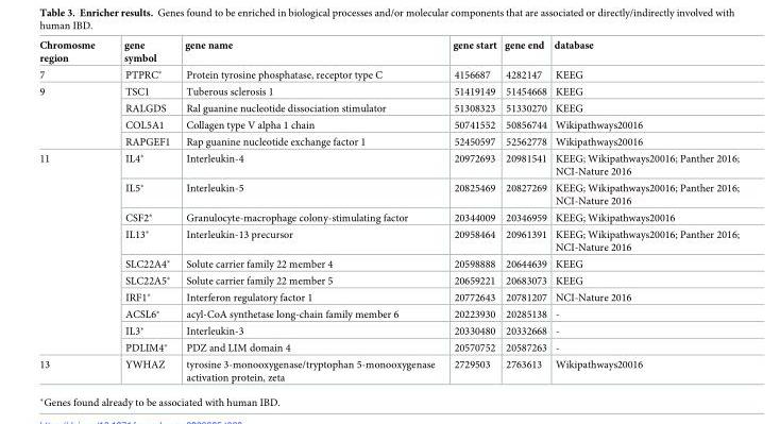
<table><thead><tr><td>Chromosme region</td><td>gene symbol</td><td>gene name</td><td>gene start</td><td>gene end</td><td>database</td></tr></thead><tbody><tr><td>7</td><td>PTPRC*</td><td>Protein tyrosine phosphatase, receptor type C</td><td>4156687</td><td>4282147</td><td>KEEG</td></tr><tr><td rowspan="4">9</td><td>TSC1</td><td>Tuberous sclerosis 1</td><td>51419149</td><td>51454668</td><td>KEEG</td></tr><tr><td>RALGDS</td><td>Ral guanine nucleotide dissociation stimulator</td><td>51308323</td><td>51330270</td><td>KEEG</td></tr><tr><td>COL5A1</td><td>Collagen type V alpha 1 chain</td><td>50741552</td><td>50856744</td><td>Wikipathways20016</td></tr><tr><td>RAPGEF1</td><td>Rap guanine nucleotide exchange factor 1</td><td>52450597</td><td>52562778</td><td>Wikipathways20016</td></tr><tr><td rowspan="10">11</td><td>IL4*</td><td>Interleukin-4</td><td>20972693</td><td>20981541</td><td>KEEG; Wikipathways20016; Panther 2016; NCI-Nature 2016</td></tr><tr><td>IL5*</td><td>Interleukin-5</td><td>20825469</td><td>20827269</td><td>KEEG; Wikipathways20016; Panther 2016; NCI-Nature 2016</td></tr><tr><td>CSF2*</td><td>Granulocyte-macrophage colony-stimulating factor</td><td>20344009</td><td>20346959</td><td>KEEG; Wikipathways20016</td></tr><tr><td>IL13*</td><td>Interleukin-13 precursor</td><td>20958464</td><td>20961391</td><td>KEEG; Wikipathways20016; Panther 2016; NCI-Nature 2016</td></tr><tr><td>SLC22A4*</td><td>Solute carrier family 22 member 4</td><td>20598888</td><td>20644639</td><td>KEEG</td></tr><tr><td>SLC22A5*</td><td>Solute carrier family 22 member 5</td><td>20659221</td><td>20683073</td><td>KEEG</td></tr><tr><td>IRF1*</td><td>Interferon regulatory factor 1</td><td>20772643</td><td>20781207</td><td>NCI-Nature 2016</td></tr><tr><td>ACSL6*</td><td>acyl-CoA synthetase long-chain family member 6</td><td>20223930</td><td>20285138</td><td>-</td></tr><tr><td>IL3*</td><td>Interleukin-3</td><td>20330480</td><td>20332668</td><td>-</td></tr><tr><td>PDLIM4*</td><td>PDZ and LIM domain 4</td><td>20570752</td><td>20587263</td><td>-</td></tr><tr><td>13</td><td>YWHAZ</td><td>tyrosine 3-monooxygenase/tryptophan 5-monooxygenase activation protein, zeta</td><td>2729503</td><td>2763613</td><td>Wikipathways20016</td></tr></tbody></table>